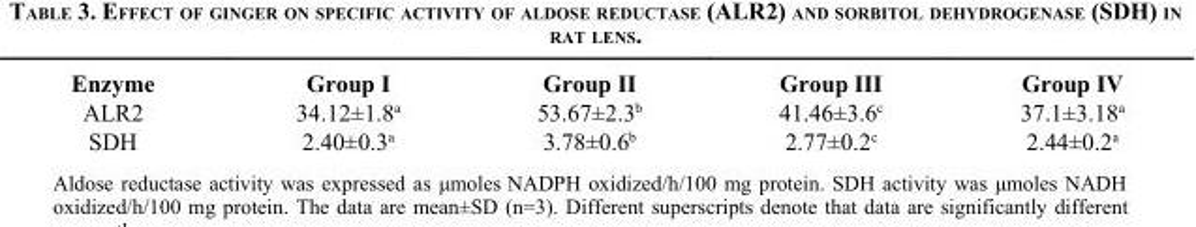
<table><thead><tr><td>Enzyme</td><td>Group I</td><td>Group II</td><td>Group III</td><td>Group IV</td></tr></thead><tbody><tr><td>ALR2</td><td>34.12±1.8<sup>a</sup></td><td>53.67±2.3<sup>b</sup></td><td>41.46±3.6<sup>c</sup></td><td>37.1±3.18<sup>a</sup></td></tr><tr><td>SDH</td><td>2.40±0.3<sup>a</sup></td><td>3.78±0.6<sup>b</sup></td><td>2.77±0.2<sup>c</sup></td><td>2.44±0.2<sup>a</sup></td></tr></tbody></table>